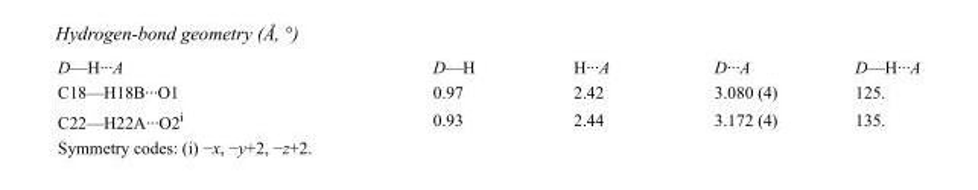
<table><tbody><tr><td>D—H···A</td><td>D—H</td><td>H···A</td><td>D···A</td><td>D—H···A</td></tr><tr><td>C18—H18B···O1</td><td>0.97</td><td>2.42</td><td>3.080 (4)</td><td>125.</td></tr><tr><td>C22—H22A···O2<sup>i</sup></td><td>0.93</td><td>2.44</td><td>3.172 (4)</td><td>135.</td></tr></tbody></table>